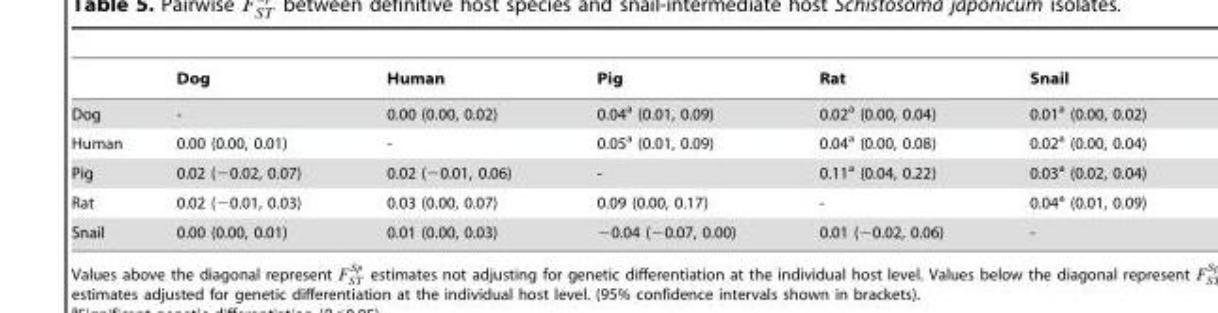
<table><thead><tr><td></td><td>Dog</td><td>Human</td><td>Pig</td><td>Rat</td><td>Snail</td></tr></thead><tbody><tr><td>Dog</td><td>-</td><td>0.00 (0.00, 0.02)</td><td>0.04<sup>a</sup> (0.01, 0.09)</td><td>0.02<sup>a</sup> (0.00, 0.04)</td><td>0.01<sup>a</sup> (0.00, 0.02)</td></tr><tr><td>Human</td><td>0.00 (0.00, 0.01)</td><td>-</td><td>0.05<sup>a</sup> (0.01, 0.09)</td><td>0.04<sup>a</sup> (0.00, 0.08)</td><td>0.02<sup>a</sup> (0.00, 0.04)</td></tr><tr><td>Pig</td><td>0.02 (−0.02, 0.07)</td><td>0.02 (−0.01, 0.06)</td><td>-</td><td>0.11<sup>a</sup> (0.04, 0.22)</td><td>0.03<sup>a</sup> (0.02, 0.04)</td></tr><tr><td>Rat</td><td>0.02 (−0.01, 0.03)</td><td>0.03 (0.00, 0.07)</td><td>0.09 (0.00, 0.17)</td><td>-</td><td>0.04<sup>a</sup> (0.01, 0.09)</td></tr><tr><td>Snail</td><td>0.00 (0.00, 0.01)</td><td>0.01 (0.00, 0.03)</td><td>−0.04 (−0.07, 0.00)</td><td>0.01 (−0.02, 0.06)</td><td>-</td></tr></tbody></table>